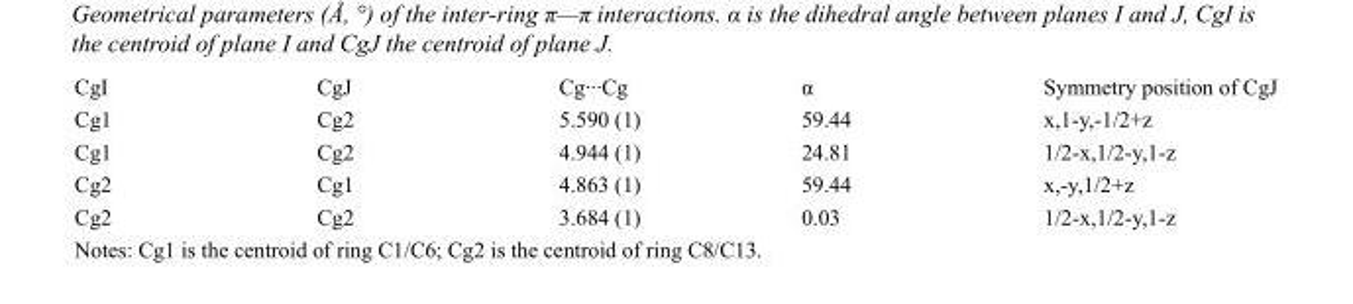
<table><tbody><tr><td>CgI</td><td>CgJ</td><td>Cg···Cg</td><td>α</td><td>Symmetry position of CgJ</td></tr><tr><td>Cg1</td><td>Cg2</td><td>5.590 (1)</td><td>59.44</td><td>x,1-y,-1/2+z</td></tr><tr><td>Cg1</td><td>Cg2</td><td>4.944 (1)</td><td>24.81</td><td>1/2-x,1/2-y,1-z</td></tr><tr><td>Cg2</td><td>Cg1</td><td>4.863 (1)</td><td>59.44</td><td>x,-y,1/2+z</td></tr><tr><td>Cg2</td><td>Cg2</td><td>3.684 (1)</td><td>0.03</td><td>1/2-x,1/2-y,1-z</td></tr></tbody></table>